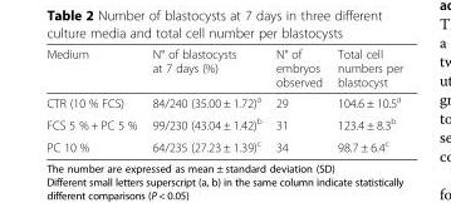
<table><thead><tr><td>Medium</td><td>N° of blastocysts at 7 days (%)</td><td>N° of embryos observed</td><td>Total cell numbers per blastocyst</td></tr></thead><tbody><tr><td>CTR (10 % FCS)</td><td>84/240 (35.00 ± 1.72)<sup>a</sup></td><td>29</td><td>104.6 ± 10.5<sup>a</sup></td></tr><tr><td>FCS 5 % + PC 5 %</td><td>99/230 (43.04 ± 1.42)<sup>b</sup></td><td>31</td><td>123.4 ± 8.3<sup>b</sup></td></tr><tr><td>PC 10 %</td><td>64/235 (27.23 ± 1.39)<sup>c</sup></td><td>34</td><td>98.7 ± 6.4<sup>c</sup></td></tr></tbody></table>